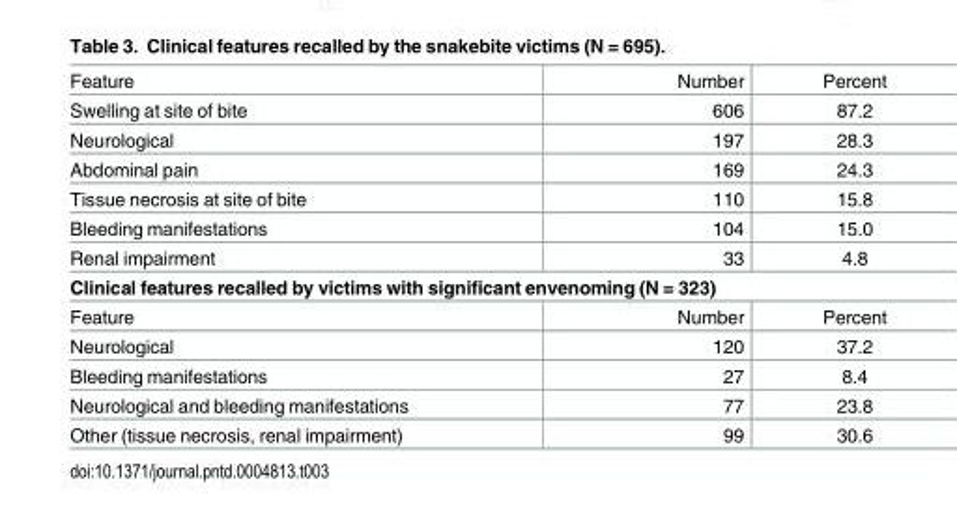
<table><tbody><tr><td>Feature</td><td>Number</td><td>Percent</td></tr><tr><td>Swelling at site of bite</td><td>606</td><td>87.2</td></tr><tr><td>Neurological</td><td>197</td><td>28.3</td></tr><tr><td>Abdominal pain</td><td>169</td><td>24.3</td></tr><tr><td>Tissue necrosis at site of bite</td><td>110</td><td>15.8</td></tr><tr><td>Bleeding manifestations</td><td>104</td><td>15.0</td></tr><tr><td>Renal impairment</td><td>33</td><td>4.8</td></tr><tr><td colspan="3">Clinical features recalled by victims with significant envenoming (N = 323)</td></tr><tr><td>Feature</td><td>Number</td><td>Percent</td></tr><tr><td>Neurological</td><td>120</td><td>37.2</td></tr><tr><td>Bleeding manifestations</td><td>27</td><td>8.4</td></tr><tr><td>Neurological and bleeding manifestations</td><td>77</td><td>23.8</td></tr><tr><td>Other (tissue necrosis, renal impairment)</td><td>99</td><td>30.6</td></tr></tbody></table>